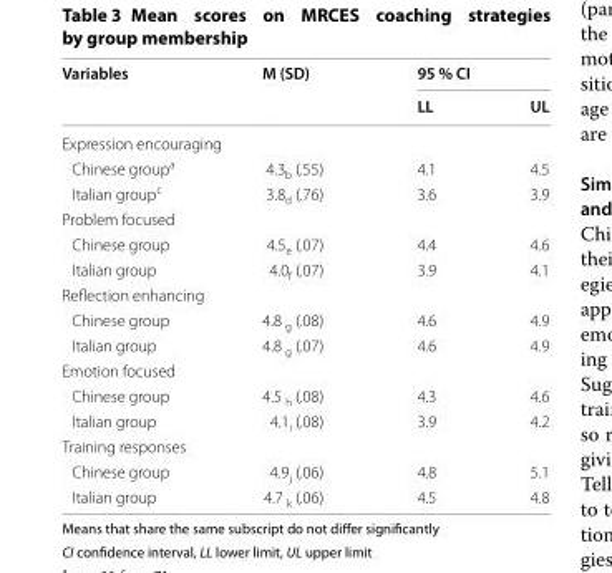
<table><thead><tr><td rowspan="2">Variables</td><td rowspan="2">M (SD)</td><td colspan="2">95 % CI</td></tr><tr><td>LL</td><td>UL</td></tr></thead><tbody><tr><td colspan="4">Expression encouraging</td></tr><tr><td>Chinese group<sup>a</sup></td><td>4.3<sub>b</sub> (.55)</td><td>4.1</td><td>4.5</td></tr><tr><td>Italian group<sup>c</sup></td><td>3.8<sub>d</sub> (.76)</td><td>3.6</td><td>3.9</td></tr><tr><td colspan="4">Problem focused</td></tr><tr><td>Chinese group</td><td>4.5<sub>e</sub> (.07)</td><td>4.4</td><td>4.6</td></tr><tr><td>Italian group</td><td>4.0<sub>f</sub> (.07)</td><td>3.9</td><td>4.1</td></tr><tr><td colspan="4">Reflection enhancing</td></tr><tr><td>Chinese group</td><td>4.8 <sub>g</sub> (.08)</td><td>4.6</td><td>4.9</td></tr><tr><td>Italian group</td><td>4.8 <sub>g</sub> (.07)</td><td>4.6</td><td>4.9</td></tr><tr><td colspan="4">Emotion focused</td></tr><tr><td>Chinese group</td><td>4.5 <sub>h</sub> (.08)</td><td>4.3</td><td>4.6</td></tr><tr><td>Italian group</td><td>4.1<sub>i</sub> (.08)</td><td>3.9</td><td>4.2</td></tr><tr><td colspan="4">Training responses</td></tr><tr><td>Chinese group</td><td>4.9<sub>j</sub> (.06)</td><td>4.8</td><td>5.1</td></tr><tr><td>Italian group</td><td>4.7 <sub>k</sub> (.06)</td><td>4.5</td><td>4.8</td></tr></tbody></table>